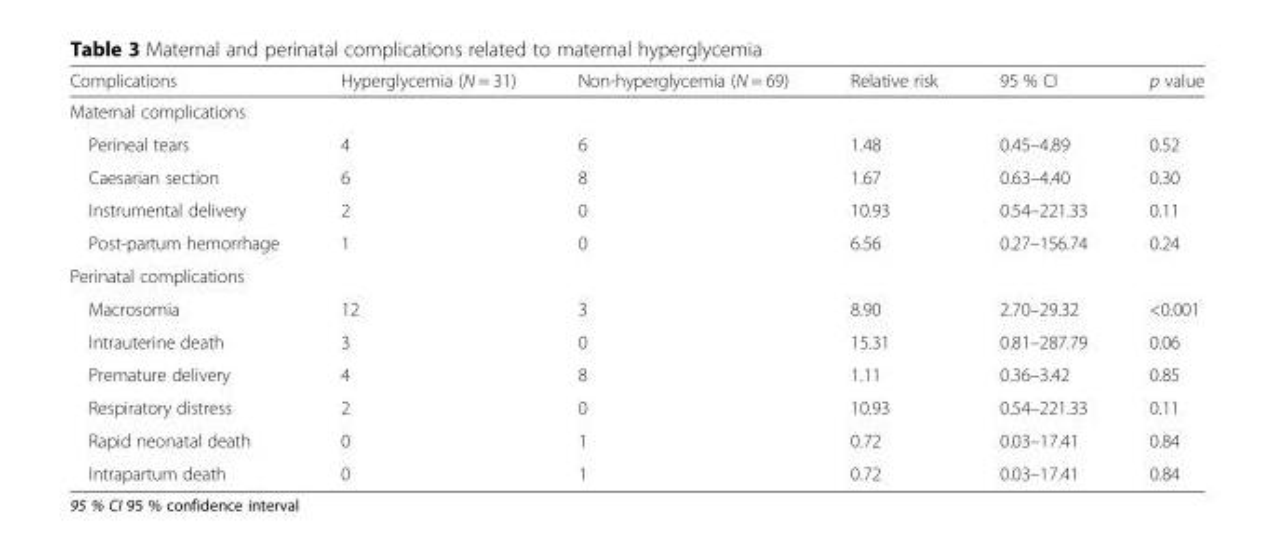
<table><thead><tr><td>Complications</td><td>Hyperglycemia (N = 31)</td><td>Non-hyperglycemia (N = 69)</td><td>Relative risk</td><td>95 % CI</td><td>p value</td></tr></thead><tbody><tr><td colspan="6">Maternal complications</td></tr><tr><td>Perineal tears</td><td>4</td><td>6</td><td>1.48</td><td>0.45–4.89</td><td>0.52</td></tr><tr><td>Caesarian section</td><td>6</td><td>8</td><td>1.67</td><td>0.63–4.40</td><td>0.30</td></tr><tr><td>Instrumental delivery</td><td>2</td><td>0</td><td>10.93</td><td>0.54–221.33</td><td>0.11</td></tr><tr><td>Post-partum hemorrhage</td><td>1</td><td>0</td><td>6.56</td><td>0.27–156.74</td><td>0.24</td></tr><tr><td colspan="6">Perinatal complications</td></tr><tr><td>Macrosomia</td><td>12</td><td>3</td><td>8.90</td><td>2.70–29.32</td><td>&lt;0.001</td></tr><tr><td>Intrauterine death</td><td>3</td><td>0</td><td>15.31</td><td>0.81–287.79</td><td>0.06</td></tr><tr><td>Premature delivery</td><td>4</td><td>8</td><td>1.11</td><td>0.36–3.42</td><td>0.85</td></tr><tr><td>Respiratory distress</td><td>2</td><td>0</td><td>10.93</td><td>0.54–221.33</td><td>0.11</td></tr><tr><td>Rapid neonatal death</td><td>0</td><td>1</td><td>0.72</td><td>0.03–17.41</td><td>0.84</td></tr><tr><td>Intrapartum death</td><td>0</td><td>1</td><td>0.72</td><td>0.03–17.41</td><td>0.84</td></tr></tbody></table>